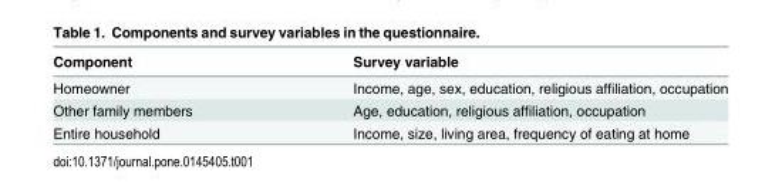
<table><thead><tr><td>Component</td><td>Survey variable</td></tr></thead><tbody><tr><td>Homeowner</td><td>Income, age, sex, education, religious affiliation, occupation</td></tr><tr><td>Other family members</td><td>Age, education, religious affiliation, occupation</td></tr><tr><td>Entire household</td><td>Income, size, living area, frequency of eating at home</td></tr></tbody></table>